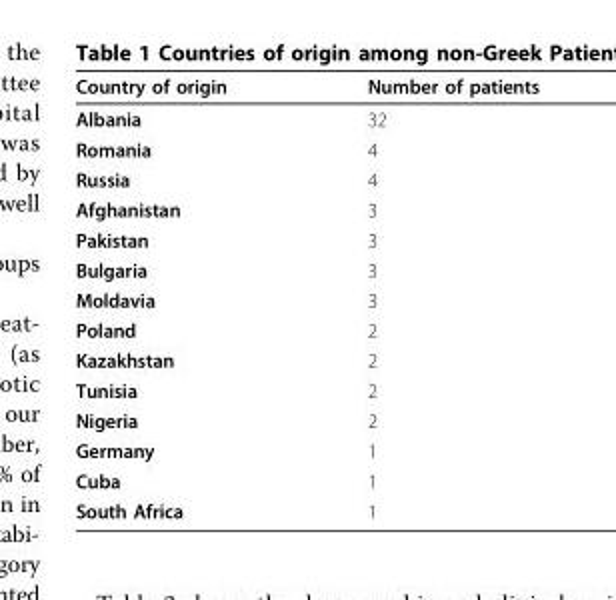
<table><thead><tr><td>Country of origin</td><td>Number of patients</td></tr></thead><tbody><tr><td>Albania</td><td>32</td></tr><tr><td>Romania</td><td>4</td></tr><tr><td>Russia</td><td>4</td></tr><tr><td>Afghanistan</td><td>3</td></tr><tr><td>Pakistan</td><td>3</td></tr><tr><td>Bulgaria</td><td>3</td></tr><tr><td>Moldavia</td><td>3</td></tr><tr><td>Poland</td><td>2</td></tr><tr><td>Kazakhstan</td><td>2</td></tr><tr><td>Tunisia</td><td>2</td></tr><tr><td>Nigeria</td><td>2</td></tr><tr><td>Germany</td><td>1</td></tr><tr><td>Cuba</td><td>1</td></tr><tr><td>South Africa</td><td>1</td></tr></tbody></table>